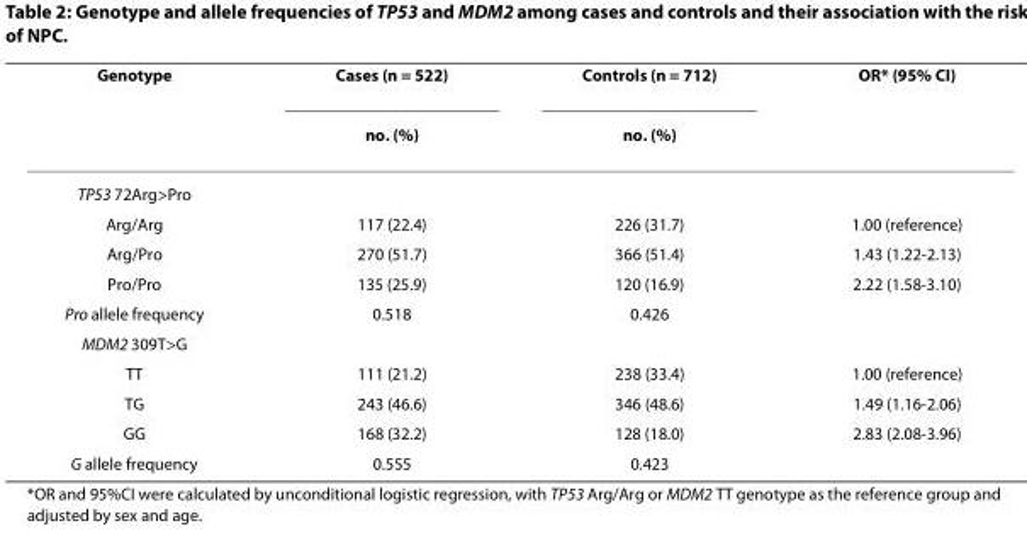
<table><thead><tr><td rowspan="2">Genotype</td><td rowspan="2">Cases (n = 522) no. (%)</td><td rowspan="2">Controls (n = 712) no. (%)</td><td rowspan="2">OR* (95% CI)</td></tr><tr></tr></thead><tbody><tr><td colspan="4">TP53 72Arg&gt;Pro</td></tr><tr><td>Arg/Arg</td><td>117 (22.4)</td><td>226 (31.7)</td><td>1.00 (reference)</td></tr><tr><td>Arg/Pro</td><td>270 (51.7)</td><td>366 (51.4)</td><td>1.43 (1.22-2.13)</td></tr><tr><td>Pro/Pro</td><td>135 (25.9)</td><td>120 (16.9)</td><td>2.22 (1.58-3.10)</td></tr><tr><td>Pro allele frequency</td><td>0.518</td><td>0.426</td><td></td></tr><tr><td colspan="4">MDM2 309T&gt;G</td></tr><tr><td>TT</td><td>111 (21.2)</td><td>238 (33.4)</td><td>1.00 (reference)</td></tr><tr><td>TG</td><td>243 (46.6)</td><td>346 (48.6)</td><td>1.49 (1.16-2.06)</td></tr><tr><td>GG</td><td>168 (32.2)</td><td>128 (18.0)</td><td>2.83 (2.08-3.96)</td></tr><tr><td>G allele frequency</td><td>0.555</td><td>0.423</td><td></td></tr></tbody></table>